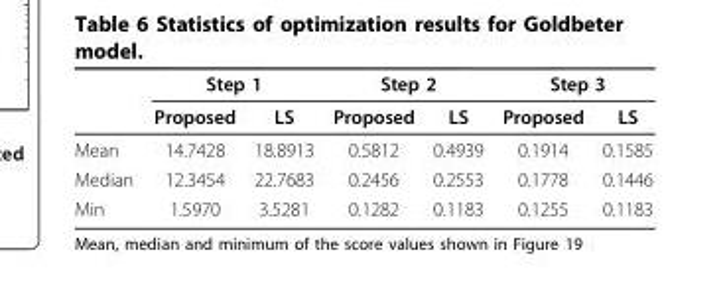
<table><thead><tr><td rowspan="2"></td><td colspan="2">Step 1</td><td colspan="2">Step 2</td><td colspan="2">Step 3</td></tr><tr><td>Proposed</td><td>LS</td><td>Proposed</td><td>LS</td><td>Proposed</td><td>LS</td></tr></thead><tbody><tr><td>Mean</td><td>14.7428</td><td>18.8913</td><td>0.5812</td><td>0.4939</td><td>0.1914</td><td>0.1585</td></tr><tr><td>Median</td><td>12.3454</td><td>22.7683</td><td>0.2456</td><td>0.2553</td><td>0.1778</td><td>0.1446</td></tr><tr><td>Min</td><td>1.5970</td><td>3.5281</td><td>0.1282</td><td>0.1183</td><td>0.1255</td><td>0.1183</td></tr></tbody></table>